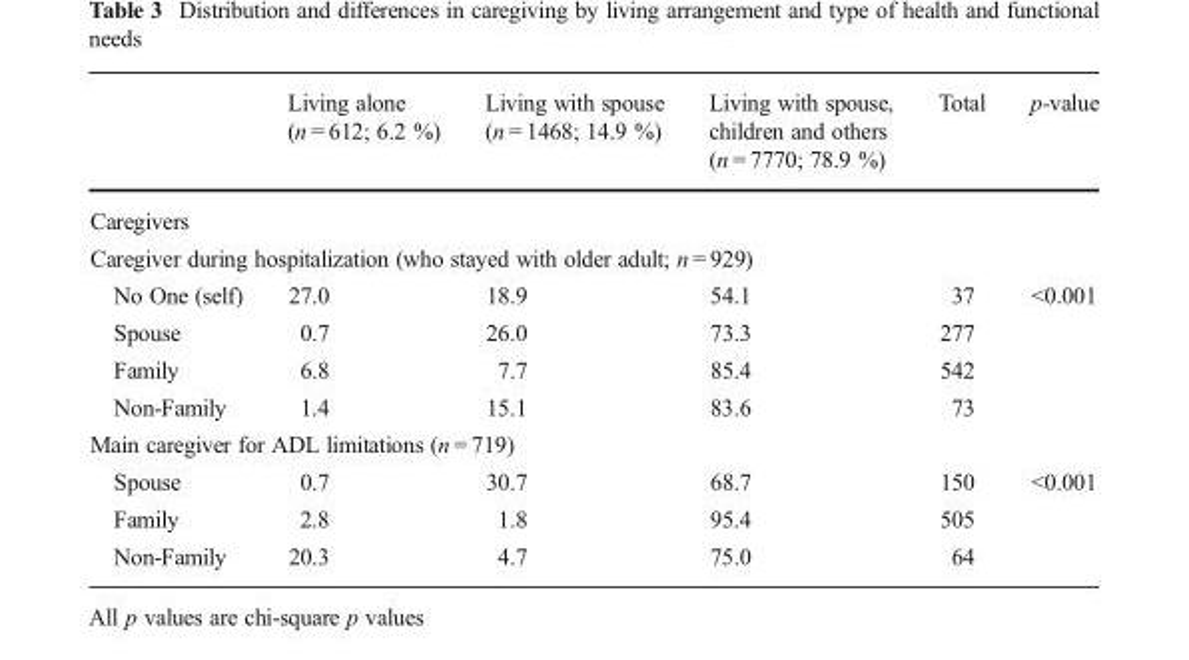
<table><thead><tr><td></td><td>Living alone (n = 612; 6.2 %)</td><td>Living with spouse (n = 1468; 14.9 %)</td><td>Living with spouse, children and others (n = 7770; 78.9 %)</td><td>Total</td><td>p-value</td></tr></thead><tbody><tr><td colspan="6">Caregivers</td></tr><tr><td colspan="6">Caregiver during hospitalization (who stayed with older adult; n = 929)</td></tr><tr><td>No One (self)</td><td>27.0</td><td>18.9</td><td>54.1</td><td>37</td><td rowspan="4">&lt;0.001</td></tr><tr><td>Spouse</td><td>0.7</td><td>26.0</td><td>73.3</td><td>277</td></tr><tr><td>Family</td><td>6.8</td><td>7.7</td><td>85.4</td><td>542</td></tr><tr><td>Non-Family</td><td>1.4</td><td>15.1</td><td>83.6</td><td>73</td></tr><tr><td colspan="6">Main caregiver for ADL limitations (n = 719)</td></tr><tr><td>Spouse</td><td>0.7</td><td>30.7</td><td>68.7</td><td>150</td><td rowspan="3">&lt;0.001</td></tr><tr><td>Family</td><td>2.8</td><td>1.8</td><td>95.4</td><td>505</td></tr><tr><td>Non-Family</td><td>20.3</td><td>4.7</td><td>75.0</td><td>64</td></tr></tbody></table>